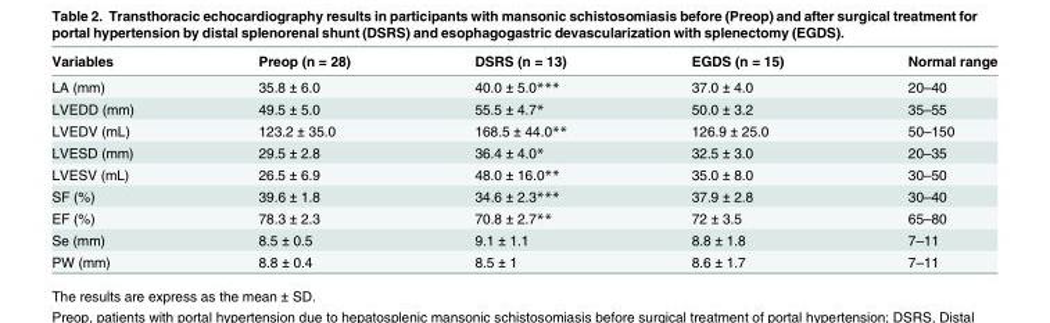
<table><thead><tr><td>Variables</td><td>Preop (n = 28)</td><td>DSRS (n = 13)</td><td>EGDS (n = 15)</td><td>Normal range</td></tr></thead><tbody><tr><td>LA (mm)</td><td>35.8 ± 6.0</td><td>40.0 ± 5.0***</td><td>37.0 ± 4.0</td><td>20–40</td></tr><tr><td>LVEDD (mm)</td><td>49.5 ± 5.0</td><td>55.5 ± 4.7*</td><td>50.0 ± 3.2</td><td>35–55</td></tr><tr><td>LVEDV (mL)</td><td>123.2 ± 35.0</td><td>168.5 ± 44.0**</td><td>126.9 ± 25.0</td><td>50–150</td></tr><tr><td>LVESD (mm)</td><td>29.5 ± 2.8</td><td>36.4 ± 4.0*</td><td>32.5 ± 3.0</td><td>20–35</td></tr><tr><td>LVESV (mL)</td><td>26.5 ± 6.9</td><td>48.0 ± 16.0**</td><td>35.0 ± 8.0</td><td>30–50</td></tr><tr><td>SF (%)</td><td>39.6 ± 1.8</td><td>34.6 ± 2.3***</td><td>37.9 ± 2.8</td><td>30–40</td></tr><tr><td>EF (%)</td><td>78.3 ± 2.3</td><td>70.8 ± 2.7**</td><td>72 ± 3.5</td><td>65–80</td></tr><tr><td>Se (mm)</td><td>8.5 ± 0.5</td><td>9.1 ± 1.1</td><td>8.8 ± 1.8</td><td>7–11</td></tr><tr><td>PW (mm)</td><td>8.8 ± 0.4</td><td>8.5 ± 1</td><td>8.6 ± 1.7</td><td>7–11</td></tr></tbody></table>